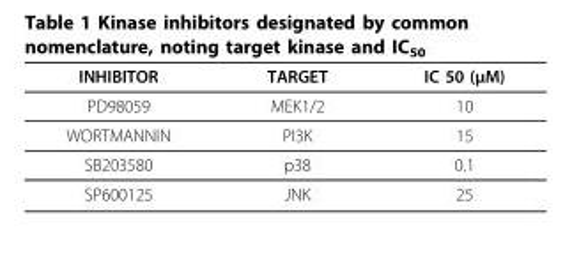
<table><thead><tr><td>INHIBITOR</td><td>TARGET</td><td>IC 50 (μM)</td></tr></thead><tbody><tr><td>PD98059</td><td>MEK1/2</td><td>10</td></tr><tr><td>WORTMANNIN</td><td>PI3K</td><td>15</td></tr><tr><td>SB203580</td><td>p38</td><td>0.1</td></tr><tr><td>SP600125</td><td>JNK</td><td>25</td></tr></tbody></table>